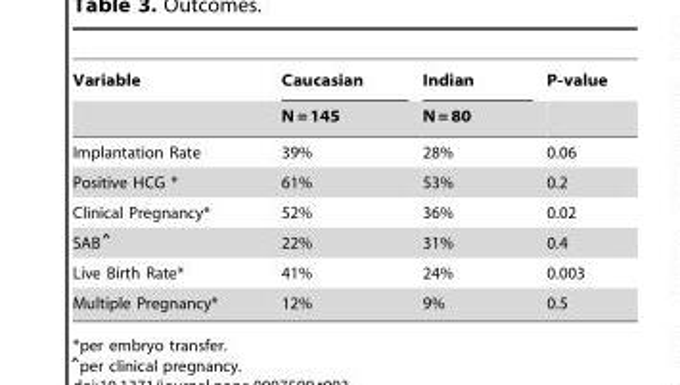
<table><thead><tr><td rowspan="2">Variable</td><td rowspan="2">Caucasian N = 145</td><td rowspan="2">Indian N = 80</td><td rowspan="2">P-value</td></tr><tr></tr></thead><tbody><tr><td>Implantation Rate</td><td>39%</td><td>28%</td><td>0.06</td></tr><tr><td>Positive HCG *</td><td>61%</td><td>53%</td><td>0.2</td></tr><tr><td>Clinical Pregnancy*</td><td>52%</td><td>36%</td><td>0.02</td></tr><tr><td>SABˆ</td><td>22%</td><td>31%</td><td>0.4</td></tr><tr><td>Live Birth Rate*</td><td>41%</td><td>24%</td><td>0.003</td></tr><tr><td>Multiple Pregnancy*</td><td>12%</td><td>9%</td><td>0.5</td></tr></tbody></table>